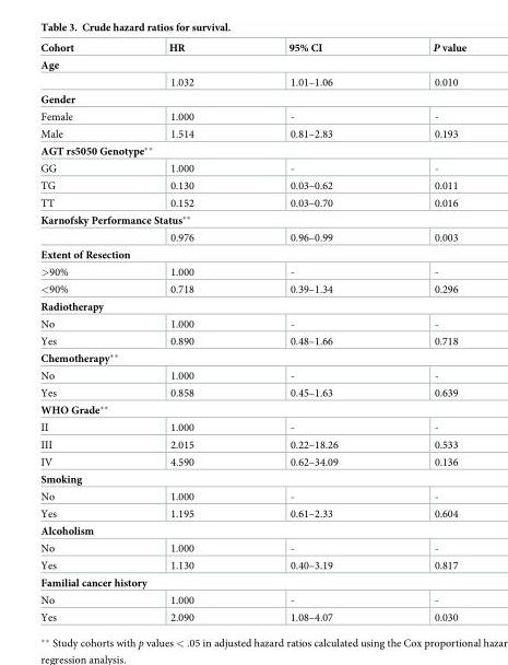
<table><thead><tr><td>Cohort</td><td>HR</td><td>95% CI</td><td>P value</td></tr></thead><tbody><tr><td colspan="4">Age</td></tr><tr><td></td><td>1.032</td><td>1.01–1.06</td><td>0.010</td></tr><tr><td colspan="4">Gender</td></tr><tr><td>Female</td><td>1.000</td><td>-</td><td>-</td></tr><tr><td>Male</td><td>1.514</td><td>0.81–2.83</td><td>0.193</td></tr><tr><td colspan="4">AGT rs5050 Genotype**</td></tr><tr><td>GG</td><td>1.000</td><td>-</td><td>-</td></tr><tr><td>TG</td><td>0.130</td><td>0.03–0.62</td><td>0.011</td></tr><tr><td>TT</td><td>0.152</td><td>0.03–0.70</td><td>0.016</td></tr><tr><td colspan="4">Karnofsky Performance Status**</td></tr><tr><td></td><td>0.976</td><td>0.96–0.99</td><td>0.003</td></tr><tr><td colspan="4">Extent of Resection</td></tr><tr><td>&gt;90%</td><td>1.000</td><td>-</td><td>-</td></tr><tr><td>&lt;90%</td><td>0.718</td><td>0.39–1.34</td><td>0.296</td></tr><tr><td colspan="4">Radiotherapy</td></tr><tr><td>No</td><td>1.000</td><td>-</td><td>-</td></tr><tr><td>Yes</td><td>0.890</td><td>0.48–1.66</td><td>0.718</td></tr><tr><td colspan="4">Chemotherapy**</td></tr><tr><td>No</td><td>1.000</td><td>-</td><td>-</td></tr><tr><td>Yes</td><td>0.858</td><td>0.45–1.63</td><td>0.639</td></tr><tr><td colspan="4">WHO Grade**</td></tr><tr><td>II</td><td>1.000</td><td>-</td><td>-</td></tr><tr><td>III</td><td>2.015</td><td>0.22–18.26</td><td>0.533</td></tr><tr><td>IV</td><td>4.590</td><td>0.62–34.09</td><td>0.136</td></tr><tr><td colspan="4">Smoking</td></tr><tr><td>No</td><td>1.000</td><td>-</td><td>-</td></tr><tr><td>Yes</td><td>1.195</td><td>0.61–2.33</td><td>0.604</td></tr><tr><td colspan="4">Alcoholism</td></tr><tr><td>No</td><td>1.000</td><td>-</td><td>-</td></tr><tr><td>Yes</td><td>1.130</td><td>0.40–3.19</td><td>0.817</td></tr><tr><td colspan="4">Familial cancer history</td></tr><tr><td>No</td><td>1.000</td><td>-</td><td>-</td></tr><tr><td>Yes</td><td>2.090</td><td>1.08–4.07</td><td>0.030</td></tr></tbody></table>